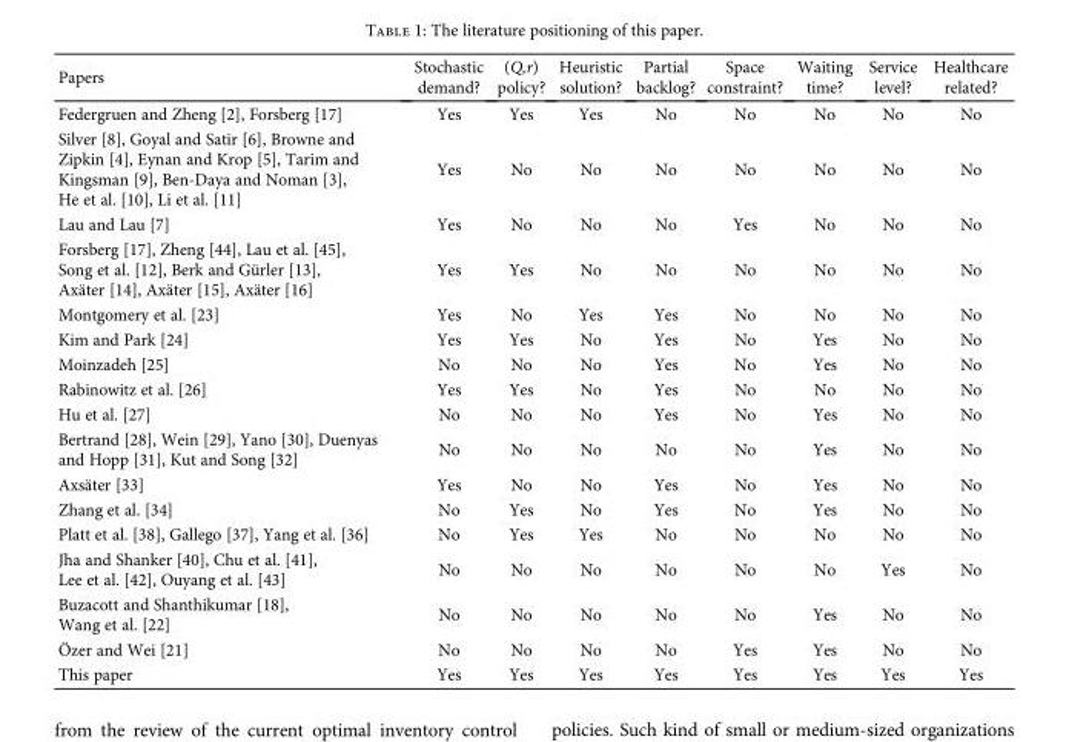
<table><thead><tr><td>Papers</td><td>Stochastic demand?</td><td>(Q,r) policy?</td><td>Heuristic solution?</td><td>Partial backlog?</td><td>Space constraint?</td><td>Waiting time?</td><td>Service level?</td><td>Healthcare related?</td></tr></thead><tbody><tr><td>Federgruen and Zheng [2], Forsberg [17]</td><td>Yes</td><td>Yes</td><td>Yes</td><td>No</td><td>No</td><td>No</td><td>No</td><td>No</td></tr><tr><td>Silver [8], Goyal and Satir [6], Browne and Zipkin [4], Eynan and Krop [5], Tarim and Kingsman [9], Ben-Daya and Noman [3], He et al. [10], Li et al. [11]</td><td>Yes</td><td>No</td><td>No</td><td>No</td><td>No</td><td>No</td><td>No</td><td>No</td></tr><tr><td>Lau and Lau [7]</td><td>Yes</td><td>No</td><td>No</td><td>No</td><td>Yes</td><td>No</td><td>No</td><td>No</td></tr><tr><td>Forsberg [17], Zheng [44], Lau et al. [45], Song et al. [12], Berk and Gürler [13], Axäter [14], Axäter [15], Axäter [16]</td><td>Yes</td><td>Yes</td><td>No</td><td>No</td><td>No</td><td>No</td><td>No</td><td>No</td></tr><tr><td>Montgomery et al. [23]</td><td>Yes</td><td>No</td><td>Yes</td><td>Yes</td><td>No</td><td>No</td><td>No</td><td>No</td></tr><tr><td>Kim and Park [24]</td><td>Yes</td><td>Yes</td><td>No</td><td>Yes</td><td>No</td><td>Yes</td><td>No</td><td>No</td></tr><tr><td>Moinzadeh [25]</td><td>No</td><td>No</td><td>No</td><td>Yes</td><td>No</td><td>Yes</td><td>No</td><td>No</td></tr><tr><td>Rabinowitz et al. [26]</td><td>Yes</td><td>Yes</td><td>No</td><td>Yes</td><td>No</td><td>No</td><td>No</td><td>No</td></tr><tr><td>Hu et al. [27]</td><td>No</td><td>No</td><td>No</td><td>Yes</td><td>No</td><td>Yes</td><td>No</td><td>No</td></tr><tr><td>Bertrand [28], Wein [29], Yano [30], Duenyas and Hopp [31], Kut and Song [32]</td><td>No</td><td>No</td><td>No</td><td>No</td><td>No</td><td>Yes</td><td>No</td><td>No</td></tr><tr><td>Axsäter [33]</td><td>Yes</td><td>No</td><td>No</td><td>Yes</td><td>No</td><td>Yes</td><td>No</td><td>No</td></tr><tr><td>Zhang et al. [34]</td><td>No</td><td>Yes</td><td>No</td><td>Yes</td><td>No</td><td>Yes</td><td>No</td><td>No</td></tr><tr><td>Platt et al. [38], Gallego [37], Yang et al. [36]</td><td>No</td><td>Yes</td><td>Yes</td><td>No</td><td>No</td><td>No</td><td>No</td><td>No</td></tr><tr><td>Jha and Shanker [40], Chu et al. [41], Lee et al. [42], Ouyang et al. [43]</td><td>No</td><td>No</td><td>No</td><td>No</td><td>No</td><td>No</td><td>Yes</td><td>No</td></tr><tr><td>Buzacott and Shanthikumar [18], Wang et al. [22]</td><td>No</td><td>No</td><td>No</td><td>No</td><td>No</td><td>Yes</td><td>No</td><td>No</td></tr><tr><td>Özer and Wei [21]</td><td>No</td><td>No</td><td>No</td><td>No</td><td>Yes</td><td>Yes</td><td>No</td><td>No</td></tr><tr><td>This paper</td><td>Yes</td><td>Yes</td><td>Yes</td><td>Yes</td><td>Yes</td><td>Yes</td><td>Yes</td><td>Yes</td></tr></tbody></table>